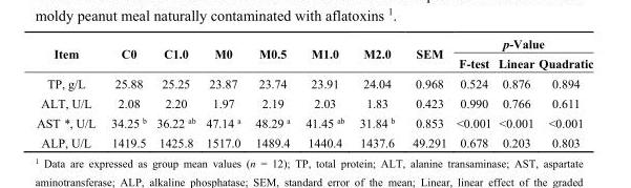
<table><thead><tr><td rowspan="2">Item</td><td rowspan="2">C0</td><td rowspan="2">C1.0</td><td rowspan="2">M0</td><td rowspan="2">M0.5</td><td rowspan="2">M1.0</td><td rowspan="2">M2.0</td><td rowspan="2">SEM</td><td colspan="3">p-Value</td></tr><tr><td>F-test</td><td>Linear</td><td>Quadratic</td></tr></thead><tbody><tr><td>TP, g/L</td><td>25.88</td><td>25.25</td><td>23.87</td><td>23.74</td><td>23.91</td><td>24.04</td><td>0.968</td><td>0.524</td><td>0.876</td><td>0.894</td></tr><tr><td>ALT, U/L</td><td>2.08</td><td>2.20</td><td>1.97</td><td>2.19</td><td>2.03</td><td>1.83</td><td>0.423</td><td>0.990</td><td>0.766</td><td>0.611</td></tr><tr><td>AST *, U/L</td><td>34.25 <sup>b</sup></td><td>36.22 <sup>ab</sup></td><td>47.14 <sup>a</sup></td><td>48.29 <sup>a</sup></td><td>41.45 <sup>ab</sup></td><td>31.84 <sup>b</sup></td><td>0.853</td><td>&lt;0.001</td><td>&lt;0.001</td><td>&lt;0.001</td></tr><tr><td>ALP, U/L</td><td>1419.5</td><td>1425.8</td><td>1517.0</td><td>1489.4</td><td>1440.4</td><td>1437.6</td><td>49.291</td><td>0.678</td><td>0.203</td><td>0.803</td></tr></tbody></table>